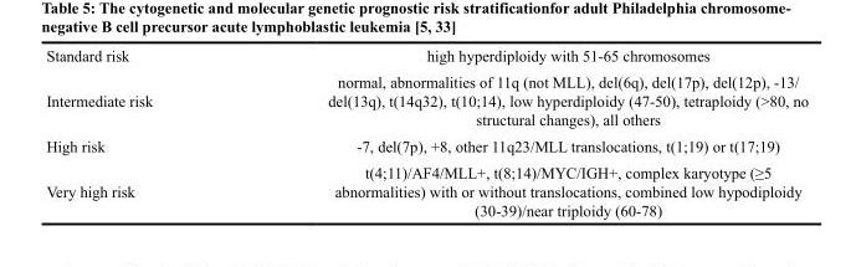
<table><tbody><tr><td>Standard risk</td><td>high hyperdiploidy with 51-65 chromosomes</td></tr><tr><td>Intermediate risk</td><td>normal, abnormalities of 11q (not MLL), del(6q), del(17p), del(12p), -13/ del(13q), t(14q32), t(10;14), low hyperdiploidy (47-50), tetraploidy (&gt;80, no structural changes), all others</td></tr><tr><td>High risk</td><td>-7, del(7p), +8, other 11q23/MLL translocations, t(1;19) or t(17;19)</td></tr><tr><td>Very high risk</td><td>t(4;11)/AF4/MLL+, t(8;14)/MYC/IGH+, complex karyotype (≥5 abnormalities) with or without translocations, combined low hypodiploidy (30-39)/near triploidy (60-78)</td></tr></tbody></table>